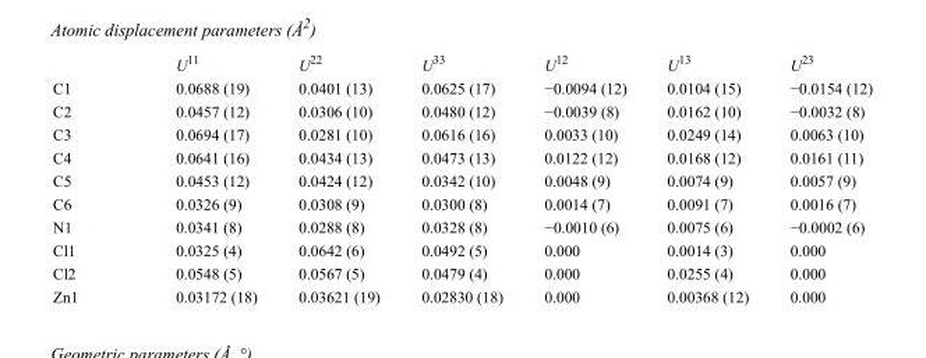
<table><thead><tr><td></td><td>U<sup>11</sup></td><td>U<sup>22</sup></td><td>U<sup>33</sup></td><td>U<sup>12</sup></td><td>U<sup>13</sup></td><td>U<sup>23</sup></td></tr></thead><tbody><tr><td>C1</td><td>0.0688 (19)</td><td>0.0401 (13)</td><td>0.0625 (17)</td><td>−0.0094 (12)</td><td>0.0104 (15)</td><td>−0.0154 (12)</td></tr><tr><td>C2</td><td>0.0457 (12)</td><td>0.0306 (10)</td><td>0.0480 (12)</td><td>−0.0039 (8)</td><td>0.0162 (10)</td><td>−0.0032 (8)</td></tr><tr><td>C3</td><td>0.0694 (17)</td><td>0.0281 (10)</td><td>0.0616 (16)</td><td>0.0033 (10)</td><td>0.0249 (14)</td><td>0.0063 (10)</td></tr><tr><td>C4</td><td>0.0641 (16)</td><td>0.0434 (13)</td><td>0.0473 (13)</td><td>0.0122 (12)</td><td>0.0168 (12)</td><td>0.0161 (11)</td></tr><tr><td>C5</td><td>0.0453 (12)</td><td>0.0424 (12)</td><td>0.0342 (10)</td><td>0.0048 (9)</td><td>0.0074 (9)</td><td>0.0057 (9)</td></tr><tr><td>C6</td><td>0.0326 (9)</td><td>0.0308 (9)</td><td>0.0300 (8)</td><td>0.0014 (7)</td><td>0.0091 (7)</td><td>0.0016 (7)</td></tr><tr><td>N1</td><td>0.0341 (8)</td><td>0.0288 (8)</td><td>0.0328 (8)</td><td>−0.0010 (6)</td><td>0.0075 (6)</td><td>−0.0002 (6)</td></tr><tr><td>Cl1</td><td>0.0325 (4)</td><td>0.0642 (6)</td><td>0.0492 (5)</td><td>0.000</td><td>0.0014 (3)</td><td>0.000</td></tr><tr><td>Cl2</td><td>0.0548 (5)</td><td>0.0567 (5)</td><td>0.0479 (4)</td><td>0.000</td><td>0.0255 (4)</td><td>0.000</td></tr><tr><td>Zn1</td><td>0.03172 (18)</td><td>0.03621 (19)</td><td>0.02830 (18)</td><td>0.000</td><td>0.00368 (12)</td><td>0.000</td></tr></tbody></table>